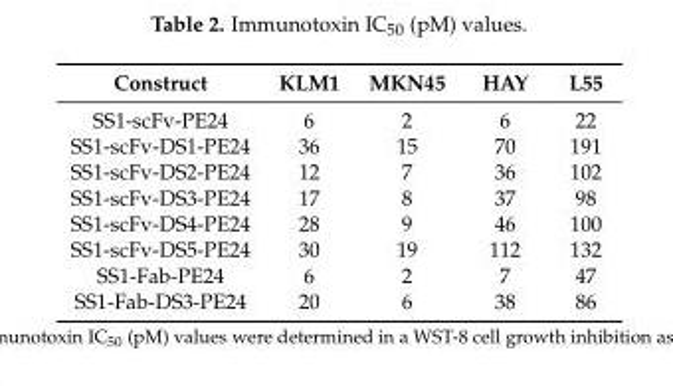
<table><thead><tr><td>Construct</td><td>KLM1</td><td>MKN45</td><td>HAY</td><td>L55</td></tr></thead><tbody><tr><td>SS1-scFv-PE24</td><td>6</td><td>2</td><td>6</td><td>22</td></tr><tr><td>SS1-scFv-DS1-PE24</td><td>36</td><td>15</td><td>70</td><td>191</td></tr><tr><td>SS1-scFv-DS2-PE24</td><td>12</td><td>7</td><td>36</td><td>102</td></tr><tr><td>SS1-scFv-DS3-PE24</td><td>17</td><td>8</td><td>37</td><td>98</td></tr><tr><td>SS1-scFv-DS4-PE24</td><td>28</td><td>9</td><td>46</td><td>100</td></tr><tr><td>SS1-scFv-DS5-PE24</td><td>30</td><td>19</td><td>112</td><td>132</td></tr><tr><td>SS1-Fab-PE24</td><td>6</td><td>2</td><td>7</td><td>47</td></tr><tr><td>SS1-Fab-DS3-PE24</td><td>20</td><td>6</td><td>38</td><td>86</td></tr></tbody></table>